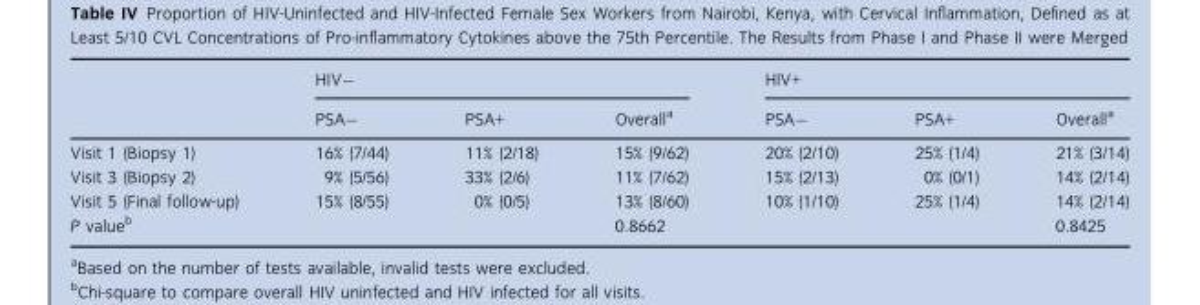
<table><thead><tr><td rowspan="2"></td><td colspan="3">HIV−</td><td colspan="3">HIV+</td></tr><tr><td>PSA−</td><td>PSA+</td><td>Overall<sup>a</sup></td><td>PSA−</td><td>PSA+</td><td>Overall<sup>a</sup></td></tr></thead><tbody><tr><td>Visit 1 (Biopsy 1)</td><td>16% (7/44)</td><td>11% (2/18)</td><td>15% (9/62)</td><td>20% (2/10)</td><td>25% (1/4)</td><td>21% (3/14)</td></tr><tr><td>Visit 3 (Biopsy 2)</td><td>9% (5/56)</td><td>33% (2/6)</td><td>11% (7/62)</td><td>15% (2/13)</td><td>0% (0/1)</td><td>14% (2/14)</td></tr><tr><td>Visit 5 (Final follow-up)</td><td>15% (8/55)</td><td>0% (0/5)</td><td>13% (8/60)</td><td>10% (1/10)</td><td>25% (1/4)</td><td>14% (2/14)</td></tr><tr><td>P valueb</td><td></td><td></td><td>0.8662</td><td></td><td></td><td>0.8425</td></tr></tbody></table>